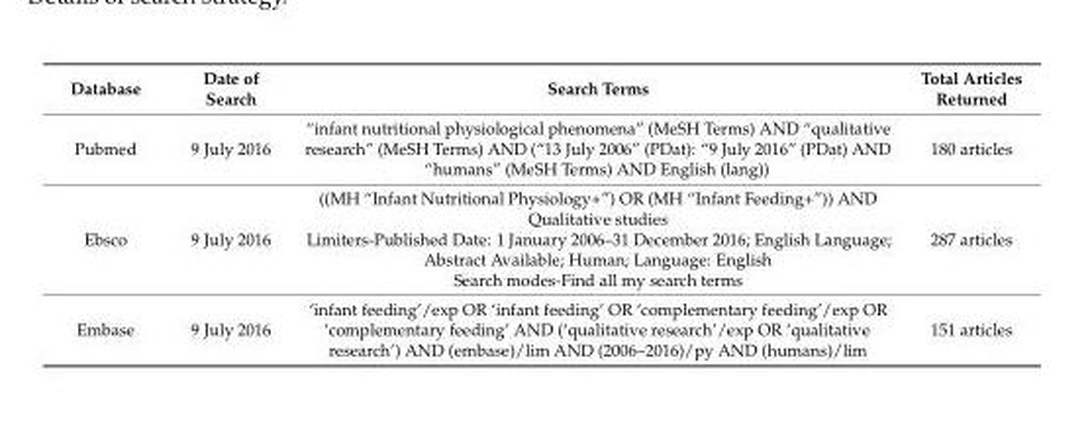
<table><thead><tr><td>Database</td><td>Date of Search</td><td>Search Terms</td><td>Total Articles Returned</td></tr></thead><tbody><tr><td>Pubmed</td><td>9 July 2016</td><td>“infant nutritional physiological phenomena” (MeSH Terms) AND “qualitative research” (MeSH Terms) AND (“13 July 2006” (PDat): “9 July 2016” (PDat) AND “humans” (MeSH Terms) AND English (lang))</td><td>180 articles</td></tr><tr><td>Ebsco</td><td>9 July 2016</td><td>((MH “Infant Nutritional Physiology+”) OR (MH “Infant Feeding+”)) AND Qualitative studies Limiters-Published Date: 1 January 2006–31 December 2016; English Language; Abstract Available; Human; Language: English Search modes-Find all my search terms</td><td>287 articles</td></tr><tr><td>Embase</td><td>9 July 2016</td><td>‘infant feeding’/exp OR ‘infant feeding’ OR ‘complementary feeding’/exp OR ‘complementary feeding’ AND (‘qualitative research’/exp OR ‘qualitative research’) AND (embase)/lim AND (2006–2016)/py AND (humans)/lim</td><td>151 articles</td></tr></tbody></table>